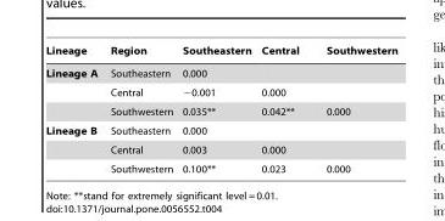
<table><thead><tr><td>Lineage</td><td>Region</td><td>Southeastern</td><td>Central</td><td>Southwestern</td></tr></thead><tbody><tr><td rowspan="3">Lineage A</td><td>Southeastern</td><td>0.000</td><td></td><td></td></tr><tr><td>Central</td><td>−0.001</td><td>0.000</td><td></td></tr><tr><td>Southwestern</td><td>0.035**</td><td>0.042**</td><td>0.000</td></tr><tr><td rowspan="3">Lineage B</td><td>Southeastern</td><td>0.000</td><td></td><td></td></tr><tr><td>Central</td><td>0.003</td><td>0.000</td><td></td></tr><tr><td>Southwestern</td><td>0.100**</td><td>0.023</td><td>0.000</td></tr></tbody></table>